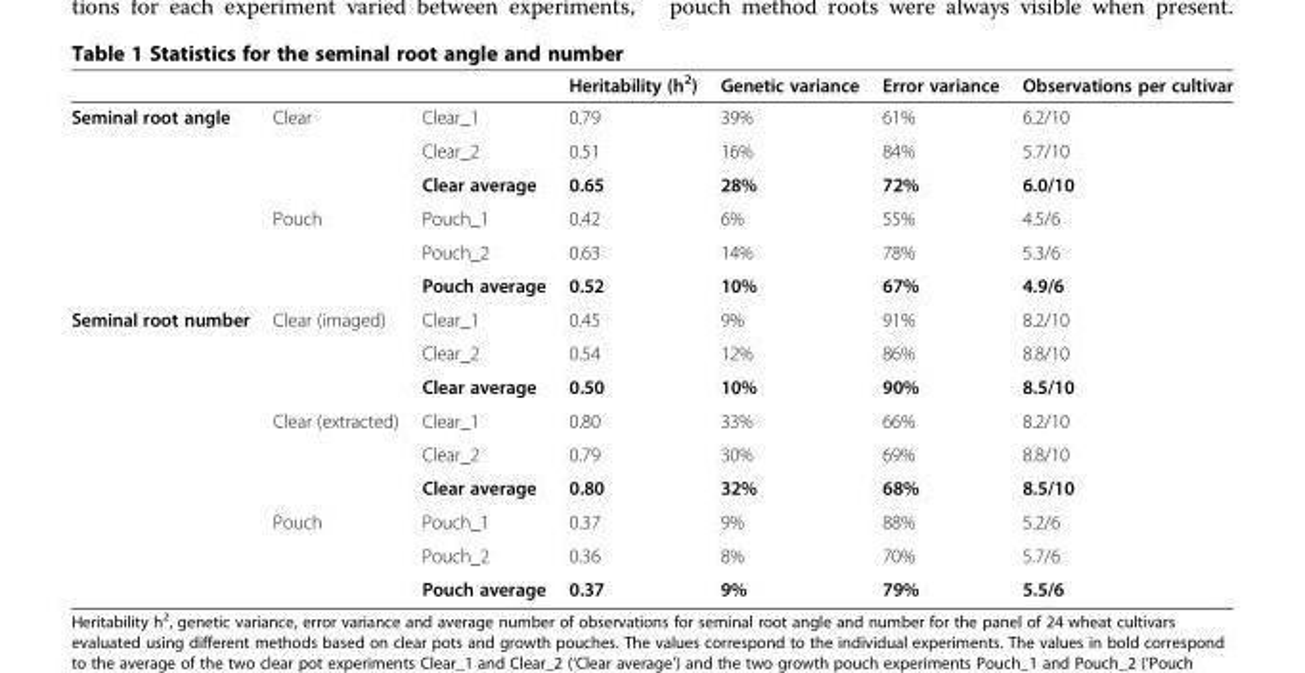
<table><thead><tr><td></td><td></td><td></td><td>Heritability (h<sup>2</sup>)</td><td>Genetic variance</td><td>Error variance</td><td>Observations per cultivar</td></tr></thead><tbody><tr><td rowspan="6">Seminal root angle</td><td rowspan="3">Clear</td><td>Clear_1</td><td>0.79</td><td>39%</td><td>61%</td><td>6.2/10</td></tr><tr><td>Clear_2</td><td>0.51</td><td>16%</td><td>84%</td><td>5.7/10</td></tr><tr><td>Clear average</td><td>0.65</td><td>28%</td><td>72%</td><td>6.0/10</td></tr><tr><td rowspan="3">Pouch</td><td>Pouch_1</td><td>0.42</td><td>6%</td><td>55%</td><td>4.5/6</td></tr><tr><td>Pouch_2</td><td>0.63</td><td>14%</td><td>78%</td><td>5.3/6</td></tr><tr><td>Pouch average</td><td>0.52</td><td>10%</td><td>67%</td><td>4.9/6</td></tr><tr><td rowspan="9">Seminal root number</td><td rowspan="3">Clear (imaged)</td><td>Clear_1</td><td>0.45</td><td>9%</td><td>91%</td><td>8.2/10</td></tr><tr><td>Clear_2</td><td>0.54</td><td>12%</td><td>86%</td><td>8.8/10</td></tr><tr><td>Clear average</td><td>0.50</td><td>10%</td><td>90%</td><td>8.5/10</td></tr><tr><td rowspan="3">Clear (extracted)</td><td>Clear_1</td><td>0.80</td><td>33%</td><td>66%</td><td>8.2/10</td></tr><tr><td>Clear_2</td><td>0.79</td><td>30%</td><td>69%</td><td>8.8/10</td></tr><tr><td>Clear average</td><td>0.80</td><td>32%</td><td>68%</td><td>8.5/10</td></tr><tr><td rowspan="3">Pouch</td><td>Pouch_1</td><td>0.37</td><td>9%</td><td>88%</td><td>5.2/6</td></tr><tr><td>Pouch_2</td><td>0.36</td><td>8%</td><td>70%</td><td>5.7/6</td></tr><tr><td>Pouch average</td><td>0.37</td><td>9%</td><td>79%</td><td>5.5/6</td></tr></tbody></table>